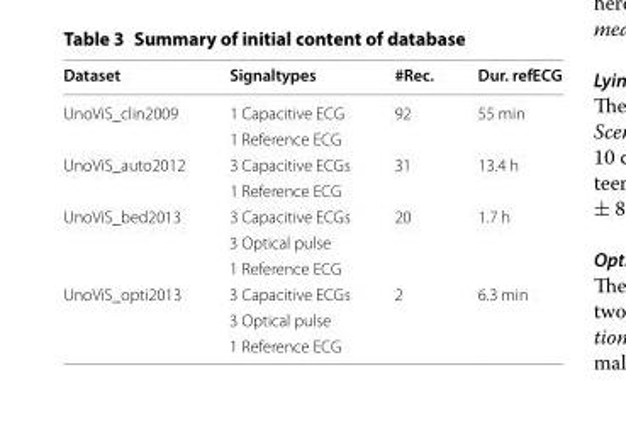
<table><thead><tr><td>Dataset</td><td>Signaltypes</td><td>#Rec.</td><td>Dur. refECG</td></tr></thead><tbody><tr><td rowspan="2">UnoViS_clin2009</td><td>1 Capacitive ECG</td><td rowspan="2">92</td><td rowspan="2">55 min</td></tr><tr><td>1 Reference ECG</td></tr><tr><td rowspan="2">UnoViS_auto2012</td><td>3 Capacitive ECGs</td><td rowspan="2">31</td><td rowspan="2">13.4 h</td></tr><tr><td>1 Reference ECG</td></tr><tr><td rowspan="3">UnoViS_bed2013</td><td>3 Capacitive ECGs</td><td rowspan="3">20</td><td rowspan="3">1.7 h</td></tr><tr><td>3 Optical pulse</td></tr><tr><td>1 Reference ECG</td></tr><tr><td rowspan="3">UnoViS_opti2013</td><td>3 Capacitive ECGs</td><td rowspan="3">2</td><td rowspan="3">6.3 min</td></tr><tr><td>3 Optical pulse</td></tr><tr><td>1 Reference ECG</td></tr></tbody></table>